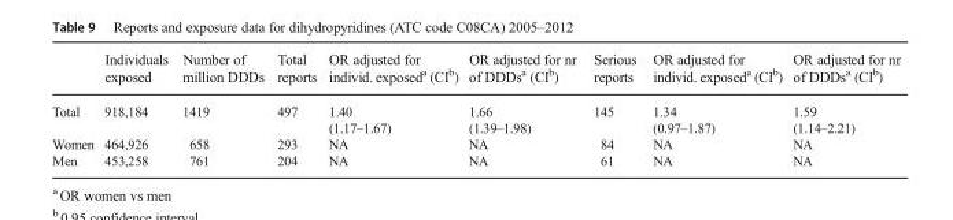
<table><thead><tr><td></td><td>Individuals exposed</td><td>Number of million DDDs</td><td>Total reports</td><td>OR adjusted for individ. exposed<sup>a</sup> (CI<sup>b</sup>)</td><td>OR adjusted for nr of DDDs<sup>a</sup> (CI<sup>b</sup>)</td><td>Serious reports</td><td>OR adjusted for individ. exposed<sup>a</sup> (CI<sup>b</sup>)</td><td>OR adjusted for nr of DDDs<sup>a</sup> (CI<sup>b</sup>)</td></tr></thead><tbody><tr><td>Total</td><td>918,184</td><td>1419</td><td>497</td><td>1.40 (1.17–1.67)</td><td>1.66 (1.39–1.98)</td><td>145</td><td>1.34 (0.97–1.87)</td><td>1.59 (1.14–2.21)</td></tr><tr><td>Women</td><td>464,926</td><td>658</td><td>293</td><td>NA</td><td>NA</td><td>84</td><td>NA</td><td>NA</td></tr><tr><td>Men</td><td>453,258</td><td>761</td><td>204</td><td>NA</td><td>NA</td><td>61</td><td>NA</td><td>NA</td></tr></tbody></table>